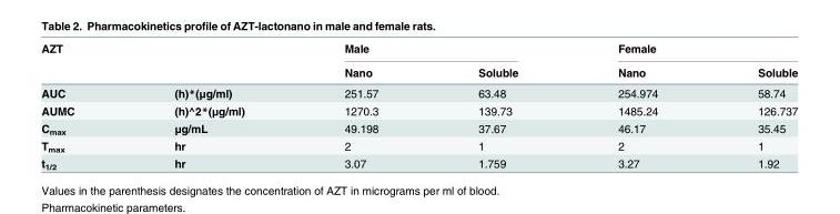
<table><thead><tr><td rowspan="2">AZT</td><td rowspan="2"></td><td colspan="2">Male</td><td colspan="2">Female</td></tr><tr><td>Nano</td><td>Soluble</td><td>Nano</td><td>Soluble</td></tr></thead><tbody><tr><td>AUC</td><td>(h)*(μg/ml)</td><td>251.57</td><td>63.48</td><td>254.974</td><td>58.74</td></tr><tr><td>AUMC</td><td>(h)^2*(μg/ml)</td><td>1270.3</td><td>139.73</td><td>1485.24</td><td>126.737</td></tr><tr><td>C<sub>max</sub></td><td>μg/mL</td><td>49.198</td><td>37.67</td><td>46.17</td><td>35.45</td></tr><tr><td>T<sub>max</sub></td><td>hr</td><td>2</td><td>1</td><td>2</td><td>1</td></tr><tr><td>t<sub>1/2</sub></td><td>hr</td><td>3.07</td><td>1.759</td><td>3.27</td><td>1.92</td></tr></tbody></table>